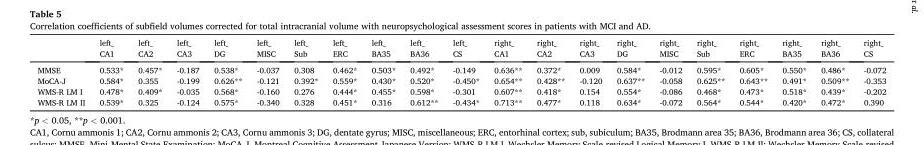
<table><thead><tr><td></td><td>left_ CA1</td><td>left_ CA2</td><td>left_ CA3</td><td>left_ DG</td><td>left_ MISC</td><td>left_ Sub</td><td>left_ ERC</td><td>left_ BA35</td><td>left_ BA36</td><td>left_ CS</td><td>right_ CA1</td><td>right_ CA2</td><td>right_ CA3</td><td>right_ DG</td><td>right_ MISC</td><td>right_ Sub</td><td>right_ ERC</td><td>right_ BA35</td><td>right_ BA36</td><td>right_ CS</td></tr></thead><tbody><tr><td>MMSE</td><td>0.533*</td><td>0.457*</td><td>-0.187</td><td>0.538*</td><td>-0.037</td><td>0.308</td><td>0.462*</td><td>0.503*</td><td>0.492*</td><td>-0.149</td><td>0.636**</td><td>0.372*</td><td>0.009</td><td>0.584*</td><td>-0.012</td><td>0.595*</td><td>0.605*</td><td>0.550*</td><td>0.486*</td><td>-0.072</td></tr><tr><td>MoCA-J</td><td>0.584*</td><td>0.355</td><td>-0.199</td><td>0.626**</td><td>-0.121</td><td>0.392*</td><td>0.559*</td><td>0.430*</td><td>0.520*</td><td>-0.450*</td><td>0.654**</td><td>0.428**</td><td>-0.120</td><td>0.637**</td><td>-0.058</td><td>0.625**</td><td>0.643**</td><td>0.491*</td><td>0.509**</td><td>-0.353</td></tr><tr><td>WMS-R LM I</td><td>0.478*</td><td>0.409*</td><td>-0.035</td><td>0.568*</td><td>-0.160</td><td>0.276</td><td>0.444*</td><td>0.455*</td><td>0.598*</td><td>-0.301</td><td>0.607**</td><td>0.418*</td><td>0.154</td><td>0.554*</td><td>-0.086</td><td>0.468*</td><td>0.473*</td><td>0.518*</td><td>0.439*</td><td>-0.202</td></tr><tr><td>WMS-R LM II</td><td>0.539*</td><td>0.325</td><td>-0.124</td><td>0.575*</td><td>-0.340</td><td>0.328</td><td>0.451*</td><td>0.316</td><td>0.612**</td><td>-0.434*</td><td>0.713**</td><td>0.477*</td><td>0.118</td><td>0.634*</td><td>-0.072</td><td>0.564*</td><td>0.544*</td><td>0.420*</td><td>0.472*</td><td>0.390</td></tr></tbody></table>